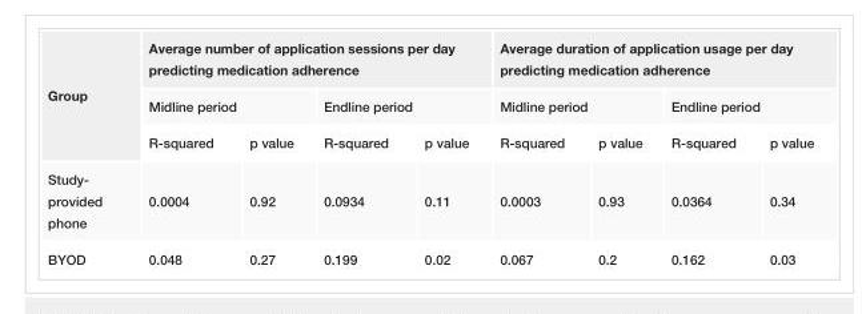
<table><tbody><tr><td rowspan="3">Group</td><td colspan="4">Average number of application sessions per day predicting medication adherence</td><td colspan="4">Average duration of application usage per day predicting medication adherence</td></tr><tr><td colspan="2">Midline period</td><td colspan="2">Endline period</td><td colspan="2">Midline period</td><td colspan="2">Endline period</td></tr><tr><td>R-squared</td><td>p value</td><td>R-squared</td><td>p value</td><td>R-squared</td><td>p value</td><td>R-squared</td><td>p value</td></tr><tr><td>Study- provided phone</td><td>0.0004</td><td>0.92</td><td>0.0934</td><td>0.11</td><td>0.0003</td><td>0.93</td><td>0.0364</td><td>0.34</td></tr><tr><td>BYOD</td><td>0.048</td><td>0.27</td><td>0.199</td><td>0.02</td><td>0.067</td><td>0.2</td><td>0.162</td><td>0.03</td></tr></tbody></table>